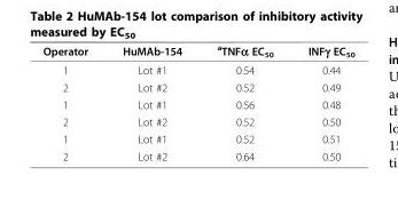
<table><thead><tr><td>Operator</td><td>HuMAb-154</td><td><sup>a</sup>TNFα EC<sub>50</sub></td><td>INFγ EC<sub>50</sub></td></tr></thead><tbody><tr><td>1</td><td>Lot #1</td><td>0.54</td><td>0.44</td></tr><tr><td>2</td><td>Lot #2</td><td>0.52</td><td>0.49</td></tr><tr><td>1</td><td>Lot #1</td><td>0.56</td><td>0.48</td></tr><tr><td>2</td><td>Lot #2</td><td>0.52</td><td>0.50</td></tr><tr><td>1</td><td>Lot #1</td><td>0.52</td><td>0.51</td></tr><tr><td>2</td><td>Lot #2</td><td>0.64</td><td>0.50</td></tr></tbody></table>